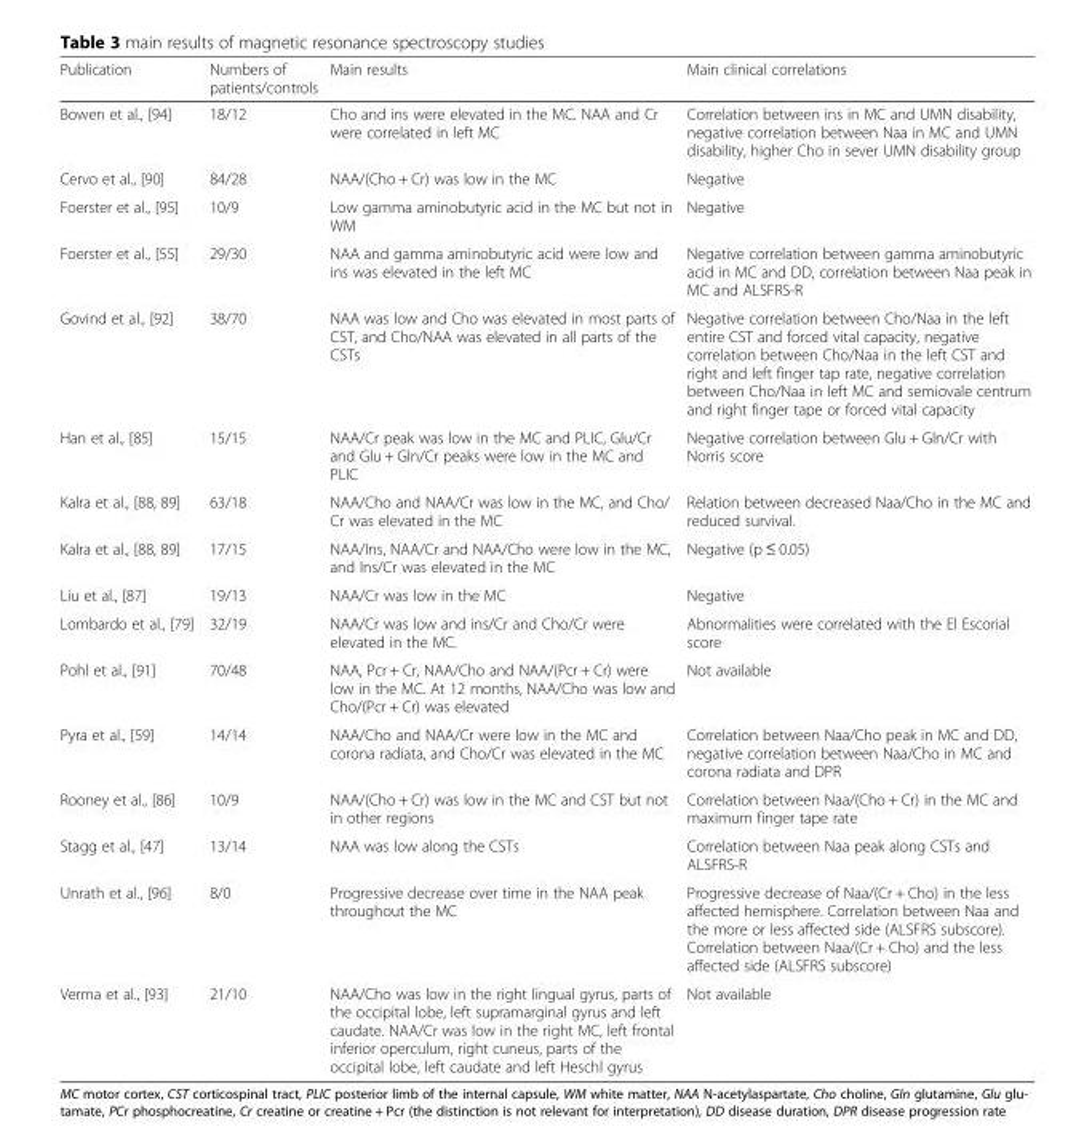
<table><thead><tr><td>Publication</td><td>Numbers of patients/controls</td><td>Main results</td><td>Main clinical correlations</td></tr></thead><tbody><tr><td>Bowen et al., [94]</td><td>18/12</td><td>Cho and ins were elevated in the MC. NAA and Cr were correlated in left MC</td><td>Correlation between ins in MC and UMN disability, negative correlation between Naa in MC and UMN disability, higher Cho in sever UMN disability group</td></tr><tr><td>Cervo et al., [90]</td><td>84/28</td><td>NAA/(Cho + Cr) was low in the MC</td><td>Negative</td></tr><tr><td>Foerster et al., [95]</td><td>10/9</td><td>Low gamma aminobutyric acid in the MC but not in WM</td><td>Negative</td></tr><tr><td>Foerster et al., [55]</td><td>29/30</td><td>NAA and gamma aminobutyric acid were low and ins was elevated in the left MC</td><td>Negative correlation between gamma aminobutyric acid in MC and DD, correlation between Naa peak in MC and ALSFRS-R</td></tr><tr><td>Govind et al., [92]</td><td>38/70</td><td>NAA was low and Cho was elevated in most parts of CST, and Cho/NAA was elevated in all parts of the CSTs</td><td>Negative correlation between Cho/Naa in the left entire CST and forced vital capacity, negative correlation between Cho/Naa in the left CST and right and left finger tap rate, negative correlation between Cho/Naa in left MC and semiovale centrum and right finger tape or forced vital capacity</td></tr><tr><td>Han et al., [85]</td><td>15/15</td><td>NAA/Cr peak was low in the MC and PLIC, Glu/Cr and Glu + Gln/Cr peaks were low in the MC and PLIC</td><td>Negative correlation between Glu + Gln/Cr with Norris score</td></tr><tr><td>Kalra et al., [88, 89]</td><td>63/18</td><td>NAA/Cho and NAA/Cr was low in the MC, and Cho/ Cr was elevated in the MC</td><td>Relation between decreased Naa/Cho in the MC and reduced survival.</td></tr><tr><td>Kalra et al., [88, 89]</td><td>17/15</td><td>NAA/Ins, NAA/Cr and NAA/Cho were low in the MC, and Ins/Cr was elevated in the MC</td><td>Negative (p ≤ 0.05)</td></tr><tr><td>Liu et al., [87]</td><td>19/13</td><td>NAA/Cr was low in the MC</td><td>Negative</td></tr><tr><td>Lombardo et al., [79]</td><td>32/19</td><td>NAA/Cr was low and ins/Cr and Cho/Cr were elevated in the MC.</td><td>Abnormalities were correlated with the El Escorial score</td></tr><tr><td>Pohl et al., [91]</td><td>70/48</td><td>NAA, Pcr + Cr, NAA/Cho and NAA/(Pcr + Cr) were low in the MC. At 12 months, NAA/Cho was low and Cho/(Pcr + Cr) was elevated</td><td>Not available</td></tr><tr><td>Pyra et al., [59]</td><td>14/14</td><td>NAA/Cho and NAA/Cr were low in the MC and corona radiata, and Cho/Cr was elevated in the MC</td><td>Correlation between Naa/Cho peak in MC and DD, negative correlation between Naa/Cho in MC and corona radiata and DPR</td></tr><tr><td>Rooney et al., [86]</td><td>10/9</td><td>NAA/(Cho + Cr) was low in the MC and CST but not in other regions</td><td>Correlation between Naa/(Cho + Cr) in the MC and maximum finger tape rate</td></tr><tr><td>Stagg et al., [47]</td><td>13/14</td><td>NAA was low along the CSTs</td><td>Correlation between Naa peak along CSTs and ALSFRS-R</td></tr><tr><td>Unrath et al., [96]</td><td>8/0</td><td>Progressive decrease over time in the NAA peak throughout the MC</td><td>Progressive decrease of Naa/(Cr + Cho) in the less affected hemisphere. Correlation between Naa and the more or less affected side (ALSFRS subscore). Correlation between Naa/(Cr + Cho) and the less affected side (ALSFRS subscore)</td></tr><tr><td>Verma et al., [93]</td><td>21/10</td><td>NAA/Cho was low in the right lingual gyrus, parts of the occipital lobe, left supramarginal gyrus and left caudate. NAA/Cr was low in the right MC, left frontal inferior operculum, right cuneus, parts of the occipital lobe, left caudate and left Heschl gyrus</td><td>Not available</td></tr></tbody></table>